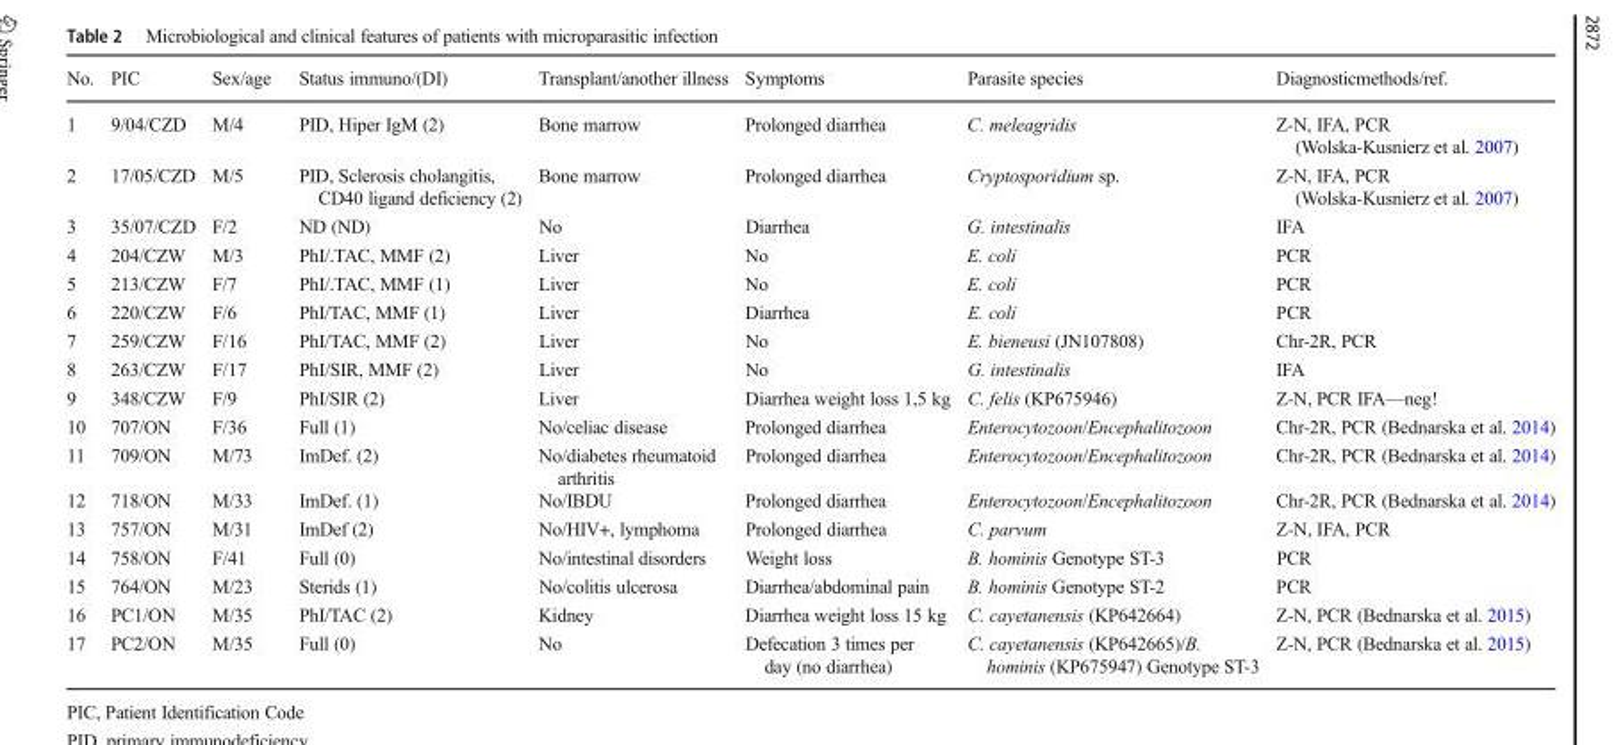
<table><thead><tr><td>No.</td><td>PIC</td><td>Sex/age</td><td>Status immuno/(DI)</td><td>Transplant/another illness</td><td>Symptoms</td><td>Parasite species</td><td>Diagnosticmethods/ref.</td></tr></thead><tbody><tr><td>1</td><td>9/04/CZD</td><td>M/4</td><td>PID, Hiper IgM (2)</td><td>Bone marrow</td><td>Prolonged diarrhea</td><td>C. meleagridis</td><td>Z-N, IFA, PCR (Wolska-Kusnierz et al. 2007)</td></tr><tr><td>2</td><td>17/05/CZD</td><td>M/5</td><td>PID, Sclerosis cholangitis, CD40 ligand deficiency (2)</td><td>Bone marrow</td><td>Prolonged diarrhea</td><td>Cryptosporidium sp.</td><td>Z-N, IFA, PCR (Wolska-Kusnierz et al. 2007)</td></tr><tr><td>3</td><td>35/07/CZD</td><td>F/2</td><td>ND (ND)</td><td>No</td><td>Diarrhea</td><td>G. intestinalis</td><td>IFA</td></tr><tr><td>4</td><td>204/CZW</td><td>M/3</td><td>PhI/.TAC, MMF (2)</td><td>Liver</td><td>No</td><td>E. coli</td><td>PCR</td></tr><tr><td>5</td><td>213/CZW</td><td>F/7</td><td>PhI/.TAC, MMF (1)</td><td>Liver</td><td>No</td><td>E. coli</td><td>PCR</td></tr><tr><td>6</td><td>220/CZW</td><td>F/6</td><td>PhI/TAC, MMF (1)</td><td>Liver</td><td>Diarrhea</td><td>E. coli</td><td>PCR</td></tr><tr><td>7</td><td>259/CZW</td><td>F/16</td><td>PhI/TAC, MMF (2)</td><td>Liver</td><td>No</td><td>E. bieneusi (JN107808)</td><td>Chr-2R, PCR</td></tr><tr><td>8</td><td>263/CZW</td><td>F/17</td><td>PhI/SIR, MMF (2)</td><td>Liver</td><td>No</td><td>G. intestinalis</td><td>IFA</td></tr><tr><td>9</td><td>348/CZW</td><td>F/9</td><td>PhI/SIR (2)</td><td>Liver</td><td>Diarrhea weight loss 1,5 kg</td><td>C. felis (KP675946)</td><td>Z-N, PCR IFA—neg!</td></tr><tr><td>10</td><td>707/ON</td><td>F/36</td><td>Full (1)</td><td>No/celiac disease</td><td>Prolonged diarrhea</td><td>Enterocytozoon/Encephalitozoon</td><td>Chr-2R, PCR (Bednarska et al. 2014)</td></tr><tr><td>11</td><td>709/ON</td><td>M/73</td><td>ImDef. (2)</td><td>No/diabetes rheumatoid arthritis</td><td>Prolonged diarrhea</td><td>Enterocytozoon/Encephalitozoon</td><td>Chr-2R, PCR (Bednarska et al. 2014)</td></tr><tr><td>12</td><td>718/ON</td><td>M/33</td><td>ImDef. (1)</td><td>No/IBDU</td><td>Prolonged diarrhea</td><td>Enterocytozoon/Encephalitozoon</td><td>Chr-2R, PCR (Bednarska et al. 2014)</td></tr><tr><td>13</td><td>757/ON</td><td>M/31</td><td>ImDef (2)</td><td>No/HIV+, lymphoma</td><td>Prolonged diarrhea</td><td>C. parvum</td><td>Z-N, IFA, PCR</td></tr><tr><td>14</td><td>758/ON</td><td>F/41</td><td>Full (0)</td><td>No/intestinal disorders</td><td>Weight loss</td><td>B. hominis Genotype ST-3</td><td>PCR</td></tr><tr><td>15</td><td>764/ON</td><td>M/23</td><td>Sterids (1)</td><td>No/colitis ulcerosa</td><td>Diarrhea/abdominal pain</td><td>B. hominis Genotype ST-2</td><td>PCR</td></tr><tr><td>16</td><td>PC1/ON</td><td>M/35</td><td>PhI/TAC (2)</td><td>Kidney</td><td>Diarrhea weight loss 15 kg</td><td>C. cayetanensis (KP642664)</td><td>Z-N, PCR (Bednarska et al. 2015)</td></tr><tr><td>17</td><td>PC2/ON</td><td>M/35</td><td>Full (0)</td><td>No</td><td>Defecation 3 times per day (no diarrhea)</td><td>C. cayetanensis (KP642665)/B. hominis (KP675947) Genotype ST-3</td><td>Z-N, PCR (Bednarska et al. 2015)</td></tr></tbody></table>